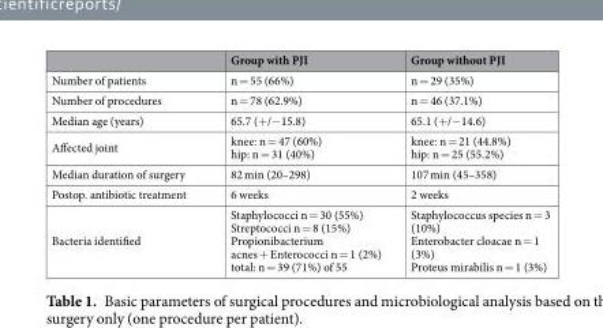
<table><thead><tr><td></td><td>Group with PJI</td><td>Group without PJI</td></tr></thead><tbody><tr><td>Number of patients</td><td>n = 55 (66%)</td><td>n = 29 (35%)</td></tr><tr><td>Number of procedures</td><td>n = 78 (62.9%)</td><td>n = 46 (37.1%)</td></tr><tr><td>Median age (years)</td><td>65.7 (+/−15.8)</td><td>65.1 (+/−14.6)</td></tr><tr><td>Affected joint</td><td>knee: n = 47 (60%) hip: n = 31 (40%)</td><td>knee: n = 21 (44.8%) hip: n = 25 (55.2%)</td></tr><tr><td>Median duration of surgery</td><td>82 min (20–298)</td><td>107 min (45–358)</td></tr><tr><td>Postop. antibiotic treatment</td><td>6 weeks</td><td>2 weeks</td></tr><tr><td>Bacteria identified</td><td>Staphylococci n = 30 (55%) Streptococci n = 8 (15%) Propionibacterium acnes + Enterococci n = 1 (2%) total: n = 39 (71%) of 55</td><td>Staphylococcus species n = 3 (10%) Enterobacter cloacae n = 1 (3%) Proteus mirabilis n = 1 (3%)</td></tr></tbody></table>